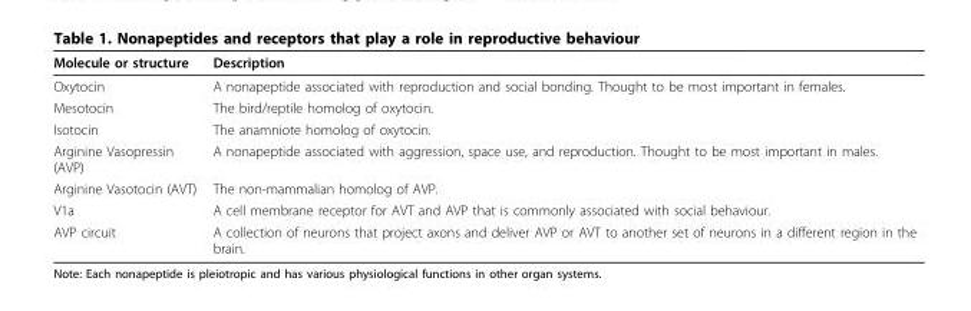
<table><tbody><tr><td>Molecule or structure</td><td>Description</td></tr><tr><td>Oxytocin</td><td>A nonapeptide associated with reproduction and social bonding. Thought to be most important in females.</td></tr><tr><td>Mesotocin</td><td>The bird/reptile homolog of oxytocin.</td></tr><tr><td>Isotocin</td><td>The anamniote homolog of oxytocin.</td></tr><tr><td>Arginine Vasopressin (AVP)</td><td>A nonapeptide associated with aggression, space use, and reproduction. Thought to be most important in males.</td></tr><tr><td>Arginine Vasotocin (AVT)</td><td>The non-mammalian homolog of AVP.</td></tr><tr><td>V1a</td><td>A cell membrane receptor for AVT and AVP that is commonly associated with social behaviour.</td></tr><tr><td>AVP circuit</td><td>A collection of neurons that project axons and deliver AVP or AVT to another set of neurons in a different region in the brain.</td></tr></tbody></table>